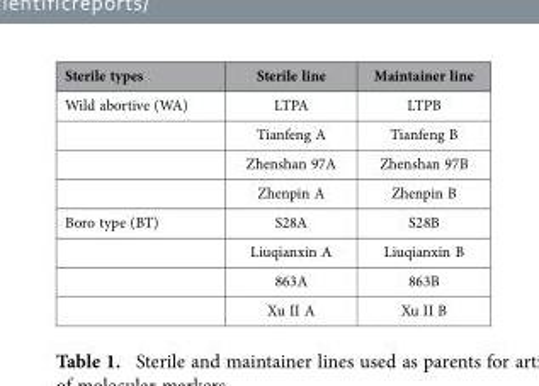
<table><thead><tr><td>Sterile types</td><td>Sterile line</td><td>Maintainer line</td></tr></thead><tbody><tr><td rowspan="4">Wild abortive (WA)</td><td>LTPA</td><td>LTPB</td></tr><tr><td>Tianfeng A</td><td>Tianfeng B</td></tr><tr><td>Zhenshan 97A</td><td>Zhenshan 97B</td></tr><tr><td>Zhenpin A</td><td>Zhenpin B</td></tr><tr><td rowspan="4">Boro type (BT)</td><td>S28A</td><td>S28B</td></tr><tr><td>Liuqianxin A</td><td>Liuqianxin B</td></tr><tr><td>863A</td><td>863B</td></tr><tr><td>Xu II A</td><td>Xu II B</td></tr></tbody></table>